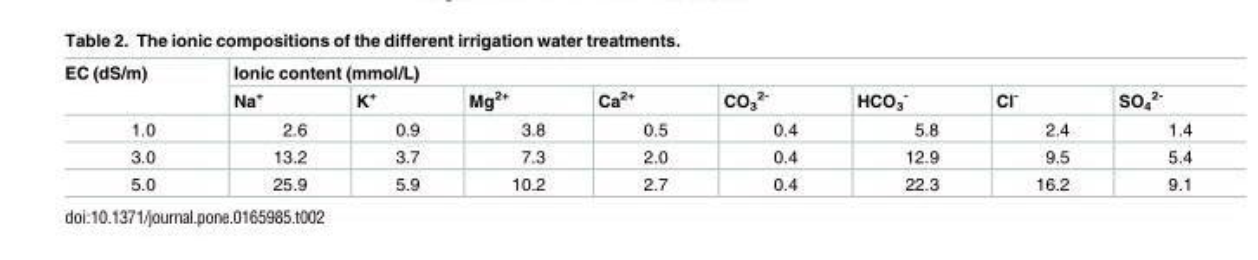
<table><thead><tr><td rowspan="2">EC (dS/m)</td><td colspan="8">Ionic content (mmol/L)</td></tr><tr><td>Na<sup>+</sup></td><td>K<sup>+</sup></td><td>Mg<sup>2+</sup></td><td>Ca<sup>2+</sup></td><td>CO<sub>3</sub> <sup>2-</sup></td><td>HCO<sub>3</sub> <sup>-</sup></td><td>Cl<sup>-</sup></td><td>SO<sub>4</sub> <sup>2-</sup></td></tr></thead><tbody><tr><td>1.0</td><td>2.6</td><td>0.9</td><td>3.8</td><td>0.5</td><td>0.4</td><td>5.8</td><td>2.4</td><td>1.4</td></tr><tr><td>3.0</td><td>13.2</td><td>3.7</td><td>7.3</td><td>2.0</td><td>0.4</td><td>12.9</td><td>9.5</td><td>5.4</td></tr><tr><td>5.0</td><td>25.9</td><td>5.9</td><td>10.2</td><td>2.7</td><td>0.4</td><td>22.3</td><td>16.2</td><td>9.1</td></tr></tbody></table>